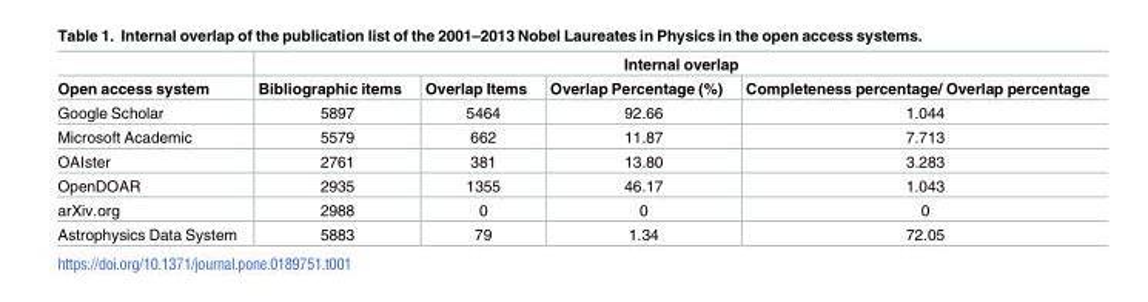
<table><thead><tr><td rowspan="2">Open access system</td><td colspan="4">Internal overlap</td></tr><tr><td>Bibliographic items</td><td>Overlap Items</td><td>Overlap Percentage (%)</td><td>Completeness percentage/ Overlap percentage</td></tr></thead><tbody><tr><td>Google Scholar</td><td>5897</td><td>5464</td><td>92.66</td><td>1.044</td></tr><tr><td>Microsoft Academic</td><td>5579</td><td>662</td><td>11.87</td><td>7.713</td></tr><tr><td>OAIster</td><td>2761</td><td>381</td><td>13.80</td><td>3.283</td></tr><tr><td>OpenDOAR</td><td>2935</td><td>1355</td><td>46.17</td><td>1.043</td></tr><tr><td>arXiv.org</td><td>2988</td><td>0</td><td>0</td><td>0</td></tr><tr><td>Astrophysics Data System</td><td>5883</td><td>79</td><td>1.34</td><td>72.05</td></tr></tbody></table>